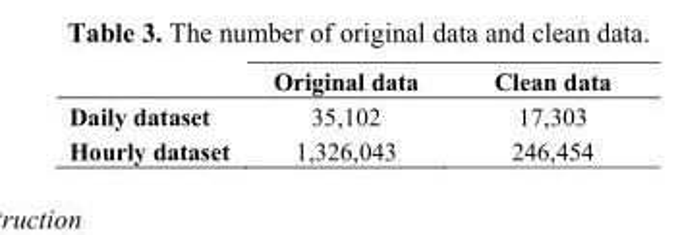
<table><thead><tr><td></td><td>Original data</td><td>Clean data</td></tr></thead><tbody><tr><td>Daily dataset</td><td>35,102</td><td>17,303</td></tr><tr><td>Hourly dataset</td><td>1,326,043</td><td>246,454</td></tr></tbody></table>